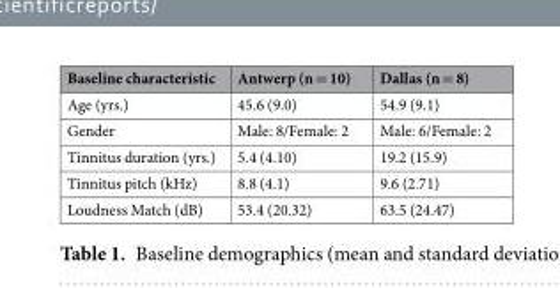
<table><thead><tr><td>Baseline characteristic</td><td>Antwerp (n = 10)</td><td>Dallas (n = 8)</td></tr></thead><tbody><tr><td>Age (yrs.)</td><td>45.6 (9.0)</td><td>54.9 (9.1)</td></tr><tr><td>Gender</td><td>Male: 8/Female: 2</td><td>Male: 6/Female: 2</td></tr><tr><td>Tinnitus duration (yrs.)</td><td>5.4 (4.10)</td><td>19.2 (15.9)</td></tr><tr><td>Tinnitus pitch (kHz)</td><td>8.8 (4.1)</td><td>9.6 (2.71)</td></tr><tr><td>Loudness Match (dB)</td><td>53.4 (20.32)</td><td>63.5 (24.47)</td></tr></tbody></table>